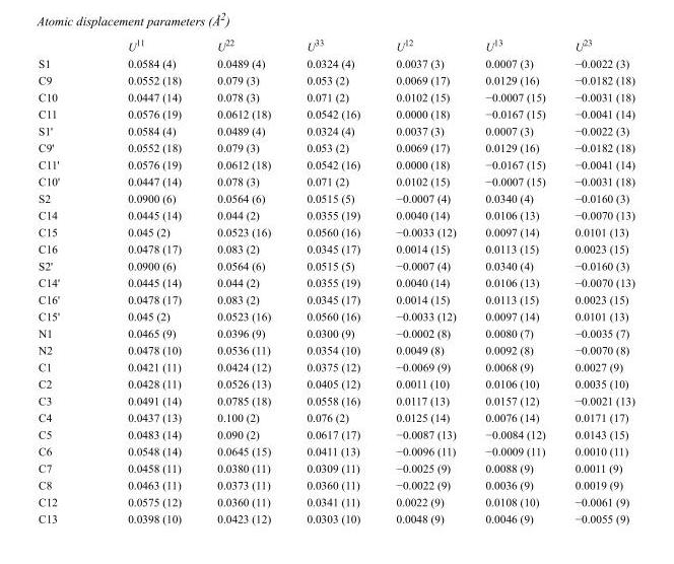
<table><thead><tr><td></td><td>U<sup>11</sup></td><td>U<sup>22</sup></td><td>U<sup>33</sup></td><td>U<sup>12</sup></td><td>U<sup>13</sup></td><td>U<sup>23</sup></td></tr></thead><tbody><tr><td>S1</td><td>0.0584 (4)</td><td>0.0489 (4)</td><td>0.0324 (4)</td><td>0.0037 (3)</td><td>0.0007 (3)</td><td>−0.0022 (3)</td></tr><tr><td>C9</td><td>0.0552 (18)</td><td>0.079 (3)</td><td>0.053 (2)</td><td>0.0069 (17)</td><td>0.0129 (16)</td><td>−0.0182 (18)</td></tr><tr><td>C10</td><td>0.0447 (14)</td><td>0.078 (3)</td><td>0.071 (2)</td><td>0.0102 (15)</td><td>−0.0007 (15)</td><td>−0.0031 (18)</td></tr><tr><td>C11</td><td>0.0576 (19)</td><td>0.0612 (18)</td><td>0.0542 (16)</td><td>0.0000 (18)</td><td>−0.0167 (15)</td><td>−0.0041 (14)</td></tr><tr><td>S1&#x27;</td><td>0.0584 (4)</td><td>0.0489 (4)</td><td>0.0324 (4)</td><td>0.0037 (3)</td><td>0.0007 (3)</td><td>−0.0022 (3)</td></tr><tr><td>C9&#x27;</td><td>0.0552 (18)</td><td>0.079 (3)</td><td>0.053 (2)</td><td>0.0069 (17)</td><td>0.0129 (16)</td><td>−0.0182 (18)</td></tr><tr><td>C11&#x27;</td><td>0.0576 (19)</td><td>0.0612 (18)</td><td>0.0542 (16)</td><td>0.0000 (18)</td><td>−0.0167 (15)</td><td>−0.0041 (14)</td></tr><tr><td>C10&#x27;</td><td>0.0447 (14)</td><td>0.078 (3)</td><td>0.071 (2)</td><td>0.0102 (15)</td><td>−0.0007 (15)</td><td>−0.0031 (18)</td></tr><tr><td>S2</td><td>0.0900 (6)</td><td>0.0564 (6)</td><td>0.0515 (5)</td><td>−0.0007 (4)</td><td>0.0340 (4)</td><td>−0.0160 (3)</td></tr><tr><td>C14</td><td>0.0445 (14)</td><td>0.044 (2)</td><td>0.0355 (19)</td><td>0.0040 (14)</td><td>0.0106 (13)</td><td>−0.0070 (13)</td></tr><tr><td>C15</td><td>0.045 (2)</td><td>0.0523 (16)</td><td>0.0560 (16)</td><td>−0.0033 (12)</td><td>0.0097 (14)</td><td>0.0101 (13)</td></tr><tr><td>C16</td><td>0.0478 (17)</td><td>0.083 (2)</td><td>0.0345 (17)</td><td>0.0014 (15)</td><td>0.0113 (15)</td><td>0.0023 (15)</td></tr><tr><td>S2&#x27;</td><td>0.0900 (6)</td><td>0.0564 (6)</td><td>0.0515 (5)</td><td>−0.0007 (4)</td><td>0.0340 (4)</td><td>−0.0160 (3)</td></tr><tr><td>C14&#x27;</td><td>0.0445 (14)</td><td>0.044 (2)</td><td>0.0355 (19)</td><td>0.0040 (14)</td><td>0.0106 (13)</td><td>−0.0070 (13)</td></tr><tr><td>C16&#x27;</td><td>0.0478 (17)</td><td>0.083 (2)</td><td>0.0345 (17)</td><td>0.0014 (15)</td><td>0.0113 (15)</td><td>0.0023 (15)</td></tr><tr><td>C15&#x27;</td><td>0.045 (2)</td><td>0.0523 (16)</td><td>0.0560 (16)</td><td>−0.0033 (12)</td><td>0.0097 (14)</td><td>0.0101 (13)</td></tr><tr><td>N1</td><td>0.0465 (9)</td><td>0.0396 (9)</td><td>0.0300 (9)</td><td>−0.0002 (8)</td><td>0.0080 (7)</td><td>−0.0035 (7)</td></tr><tr><td>N2</td><td>0.0478 (10)</td><td>0.0536 (11)</td><td>0.0354 (10)</td><td>0.0049 (8)</td><td>0.0092 (8)</td><td>−0.0070 (8)</td></tr><tr><td>C1</td><td>0.0421 (11)</td><td>0.0424 (12)</td><td>0.0375 (12)</td><td>−0.0069 (9)</td><td>0.0068 (9)</td><td>0.0027 (9)</td></tr><tr><td>C2</td><td>0.0428 (11)</td><td>0.0526 (13)</td><td>0.0405 (12)</td><td>0.0011 (10)</td><td>0.0106 (10)</td><td>0.0035 (10)</td></tr><tr><td>C3</td><td>0.0491 (14)</td><td>0.0785 (18)</td><td>0.0558 (16)</td><td>0.0117 (13)</td><td>0.0157 (12)</td><td>−0.0021 (13)</td></tr><tr><td>C4</td><td>0.0437 (13)</td><td>0.100 (2)</td><td>0.076 (2)</td><td>0.0125 (14)</td><td>0.0076 (14)</td><td>0.0171 (17)</td></tr><tr><td>C5</td><td>0.0483 (14)</td><td>0.090 (2)</td><td>0.0617 (17)</td><td>−0.0087 (13)</td><td>−0.0084 (12)</td><td>0.0143 (15)</td></tr><tr><td>C6</td><td>0.0548 (14)</td><td>0.0645 (15)</td><td>0.0411 (13)</td><td>−0.0096 (11)</td><td>−0.0009 (11)</td><td>0.0010 (11)</td></tr><tr><td>C7</td><td>0.0458 (11)</td><td>0.0380 (11)</td><td>0.0309 (11)</td><td>−0.0025 (9)</td><td>0.0088 (9)</td><td>0.0011 (9)</td></tr><tr><td>C8</td><td>0.0463 (11)</td><td>0.0373 (11)</td><td>0.0360 (11)</td><td>−0.0022 (9)</td><td>0.0036 (9)</td><td>0.0019 (9)</td></tr><tr><td>C12</td><td>0.0575 (12)</td><td>0.0360 (11)</td><td>0.0341 (11)</td><td>0.0022 (9)</td><td>0.0108 (10)</td><td>−0.0061 (9)</td></tr><tr><td>C13</td><td>0.0398 (10)</td><td>0.0423 (12)</td><td>0.0303 (10)</td><td>0.0048 (9)</td><td>0.0046 (9)</td><td>−0.0055 (9)</td></tr></tbody></table>